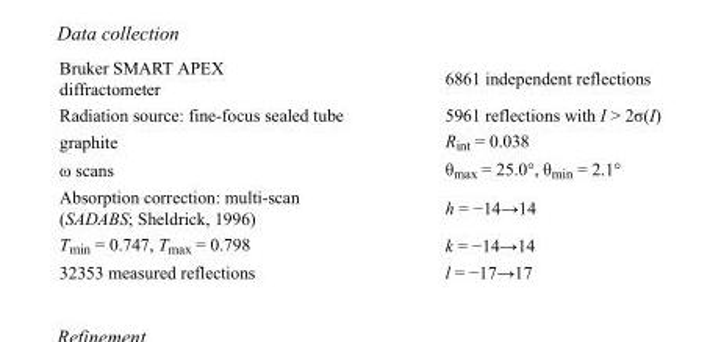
<table><tbody><tr><td>Bruker SMART APEX diffractometer</td><td>6861 independent reflections</td></tr><tr><td>Radiation source: fine-focus sealed tube</td><td>5961 reflections with I &gt; 2σ(I)</td></tr><tr><td>graphite</td><td>R<sub>int</sub> = 0.038</td></tr><tr><td>ω scans</td><td>θ<sub>max</sub> = 25.0°, θ<sub>min</sub> = 2.1°</td></tr><tr><td>Absorption correction: multi-scan (SADABS; Sheldrick, 1996)</td><td>h = −14→14</td></tr><tr><td>T<sub>min</sub> = 0.747, T<sub>max</sub> = 0.798</td><td>k = −14→14</td></tr><tr><td>32353 measured reflections</td><td>l = −17→17</td></tr></tbody></table>